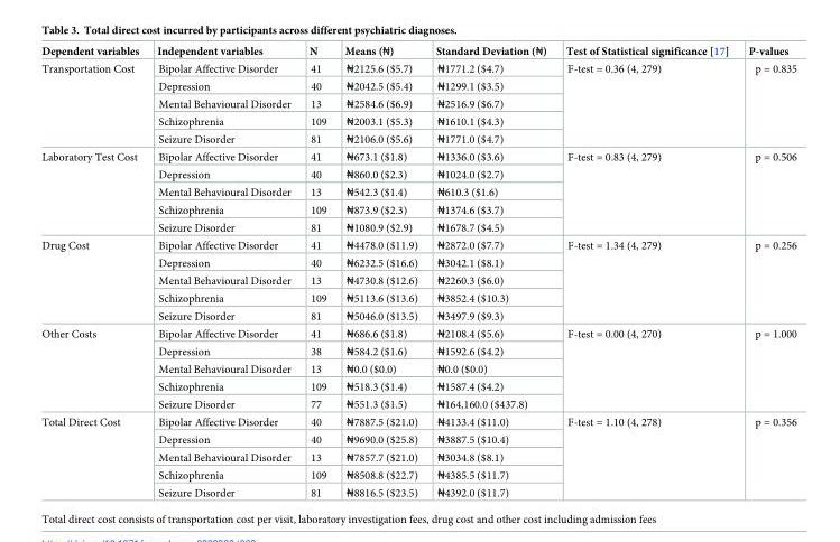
<table><thead><tr><td>Dependent variables</td><td>Independent variables</td><td>N</td><td>Means (₦)</td><td>Standard Deviation (₦)</td><td>Test of Statistical significance [17]</td><td>P-values</td></tr></thead><tbody><tr><td rowspan="5">Transportation Cost</td><td>Bipolar Affective Disorder</td><td>41</td><td>₦2125.6 ($5.7)</td><td>₦1771.2 ($4.7)</td><td rowspan="5">F-test = 0.36 (4, 279)</td><td rowspan="5">p = 0.835</td></tr><tr><td>Depression</td><td>40</td><td>₦2042.5 ($5.4)</td><td>₦1299.1 ($3.5)</td></tr><tr><td>Mental Behavioural Disorder</td><td>13</td><td>₦2584.6 ($6.9)</td><td>₦2516.9 ($6.7)</td></tr><tr><td>Schizophrenia</td><td>109</td><td>₦2003.1 ($5.3)</td><td>₦1610.1 ($4.3)</td></tr><tr><td>Seizure Disorder</td><td>81</td><td>₦2106.0 ($5.6)</td><td>₦1771.0 ($4.7)</td></tr><tr><td rowspan="5">Laboratory Test Cost</td><td>Bipolar Affective Disorder</td><td>41</td><td>₦673.1 ($1.8)</td><td>₦1336.0 ($3.6)</td><td rowspan="5">F-test = 0.83 (4, 279)</td><td rowspan="5">p = 0.506</td></tr><tr><td>Depression</td><td>40</td><td>₦860.0 ($2.3)</td><td>₦1024.0 ($2.7)</td></tr><tr><td>Mental Behavioural Disorder</td><td>13</td><td>₦542.3 ($1.4)</td><td>₦610.3 ($1.6)</td></tr><tr><td>Schizophrenia</td><td>109</td><td>₦873.9 ($2.3)</td><td>₦1374.6 ($3.7)</td></tr><tr><td>Seizure Disorder</td><td>81</td><td>₦1080.9 ($2.9)</td><td>₦1678.7 ($4.5)</td></tr><tr><td rowspan="5">Drug Cost</td><td>Bipolar Affective Disorder</td><td>41</td><td>₦4478.0 ($11.9)</td><td>₦2872.0 ($7.7)</td><td rowspan="5">F-test = 1.34 (4, 279)</td><td rowspan="5">p = 0.256</td></tr><tr><td>Depression</td><td>40</td><td>₦6232.5 ($16.6)</td><td>₦3042.1 ($8.1)</td></tr><tr><td>Mental Behavioural Disorder</td><td>13</td><td>₦4730.8 ($12.6)</td><td>₦2260.3 ($6.0)</td></tr><tr><td>Schizophrenia</td><td>109</td><td>₦5113.6 ($13.6)</td><td>₦3852.4 ($10.3)</td></tr><tr><td>Seizure Disorder</td><td>81</td><td>₦5046.0 ($13.5)</td><td>₦3497.9 ($9.3)</td></tr><tr><td rowspan="5">Other Costs</td><td>Bipolar Affective Disorder</td><td>41</td><td>₦686.6 ($1.8)</td><td>₦2108.4 ($5.6)</td><td rowspan="5">F-test = 0.00 (4, 270)</td><td rowspan="5">p = 1.000</td></tr><tr><td>Depression</td><td>38</td><td>₦584.2 ($1.6)</td><td>₦1592.6 ($4.2)</td></tr><tr><td>Mental Behavioural Disorder</td><td>13</td><td>₦0.0 ($0.0)</td><td>₦0.0 ($0.0)</td></tr><tr><td>Schizophrenia</td><td>109</td><td>₦518.3 ($1.4)</td><td>₦1587.4 ($4.2)</td></tr><tr><td>Seizure Disorder</td><td>77</td><td>₦551.3 ($1.5)</td><td>₦164,160.0 ($437.8)</td></tr><tr><td rowspan="5">Total Direct Cost</td><td>Bipolar Affective Disorder</td><td>40</td><td>₦7887.5 ($21.0)</td><td>₦4133.4 ($11.0)</td><td rowspan="5">F-test = 1.10 (4, 278)</td><td rowspan="5">p = 0.356</td></tr><tr><td>Depression</td><td>40</td><td>₦9690.0 ($25.8)</td><td>₦3887.5 ($10.4)</td></tr><tr><td>Mental Behavioural Disorder</td><td>13</td><td>₦7857.7 ($21.0)</td><td>₦3034.8 ($8.1)</td></tr><tr><td>Schizophrenia</td><td>109</td><td>₦8508.8 ($22.7)</td><td>₦4385.5 ($11.7)</td></tr><tr><td>Seizure Disorder</td><td>81</td><td>₦8816.5 ($23.5)</td><td>₦4392.0 ($11.7)</td></tr></tbody></table>